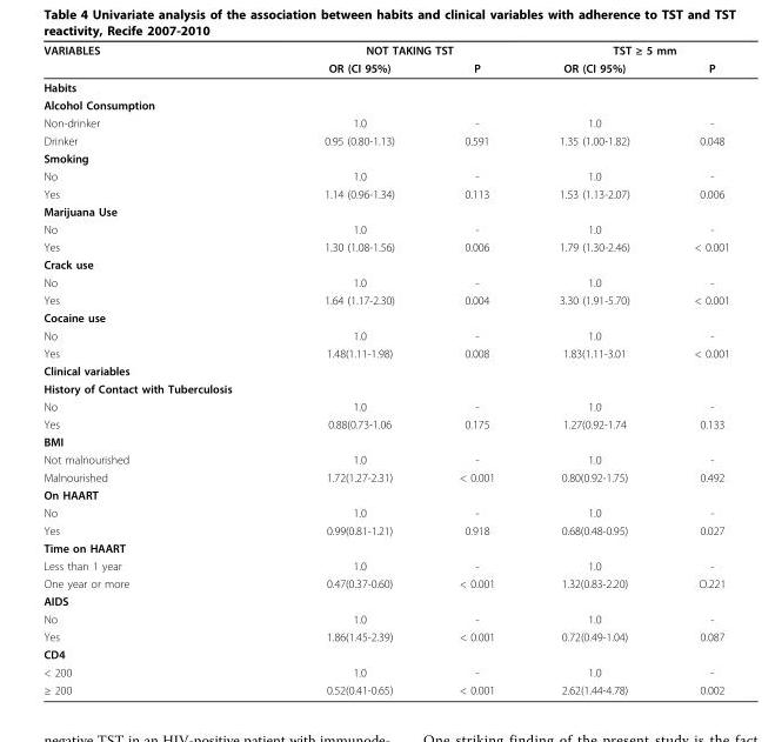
<table><thead><tr><td rowspan="2">VARIABLES</td><td colspan="2">NOT TAKING TST</td><td colspan="2">TST ≥ 5 mm</td></tr><tr><td>OR (CI 95%)</td><td>P</td><td>OR (CI 95%)</td><td>P</td></tr></thead><tbody><tr><td colspan="5">Habits</td></tr><tr><td colspan="5">Alcohol Consumption</td></tr><tr><td>Non-drinker</td><td>1.0</td><td>-</td><td>1.0</td><td>-</td></tr><tr><td>Drinker</td><td>0.95 (0.80-1.13)</td><td>0.591</td><td>1.35 (1.00-1.82)</td><td>0.048</td></tr><tr><td colspan="5">Smoking</td></tr><tr><td>No</td><td>1.0</td><td>-</td><td>1.0</td><td>-</td></tr><tr><td>Yes</td><td>1.14 (0.96-1.34)</td><td>0.113</td><td>1.53 (1.13-2.07)</td><td>0.006</td></tr><tr><td colspan="5">Marijuana Use</td></tr><tr><td>No</td><td>1.0</td><td>-</td><td>1.0</td><td>-</td></tr><tr><td>Yes</td><td>1.30 (1.08-1.56)</td><td>0.006</td><td>1.79 (1.30-2.46)</td><td>&lt; 0.001</td></tr><tr><td colspan="5">Crack use</td></tr><tr><td>No</td><td>1.0</td><td>-</td><td>1.0</td><td>-</td></tr><tr><td>Yes</td><td>1.64 (1.17-2.30)</td><td>0.004</td><td>3.30 (1.91-5.70)</td><td>&lt; 0.001</td></tr><tr><td colspan="5">Cocaine use</td></tr><tr><td>No</td><td>1.0</td><td>-</td><td>1.0</td><td>-</td></tr><tr><td>Yes</td><td>1.48(1.11-1.98)</td><td>0.008</td><td>1.83(1.11-3.01</td><td>&lt; 0.001</td></tr><tr><td colspan="5">Clinical variables</td></tr><tr><td colspan="5">History of Contact with Tuberculosis</td></tr><tr><td>No</td><td>1.0</td><td>-</td><td>1.0</td><td>-</td></tr><tr><td>Yes</td><td>0.88(0.73-1.06</td><td>0.175</td><td>1.27(0.92-1.74</td><td>0.133</td></tr><tr><td colspan="5">BMI</td></tr><tr><td>Not malnourished</td><td>1.0</td><td>-</td><td>1.0</td><td>-</td></tr><tr><td>Malnourished</td><td>1.72(1.27-2.31)</td><td>&lt; 0.001</td><td>0.80(0.92-1.75)</td><td>0.492</td></tr><tr><td colspan="5">On HAART</td></tr><tr><td>No</td><td>1.0</td><td>-</td><td>1.0</td><td>-</td></tr><tr><td>Yes</td><td>0.99(0.81-1.21)</td><td>0.918</td><td>0.68(0.48-0.95)</td><td>0.027</td></tr><tr><td colspan="5">Time on HAART</td></tr><tr><td>Less than 1 year</td><td>1.0</td><td>-</td><td>1.0</td><td>-</td></tr><tr><td>One year or more</td><td>0.47(0.37-0.60)</td><td>&lt; 0.001</td><td>1.32(0.83-2.20)</td><td>O.221</td></tr><tr><td colspan="5">AIDS</td></tr><tr><td>No</td><td>1.0</td><td>-</td><td>1.0</td><td>-</td></tr><tr><td>Yes</td><td>1.86(1.45-2.39)</td><td>&lt; 0.001</td><td>0.72(0.49-1.04)</td><td>0.087</td></tr><tr><td colspan="5">CD4</td></tr><tr><td>&lt; 200</td><td>1.0</td><td>-</td><td>1.0</td><td>-</td></tr><tr><td>≥ 200</td><td>0.52(0.41-0.65)</td><td>&lt; 0.001</td><td>2.62(1.44-4.78)</td><td>0.002</td></tr></tbody></table>